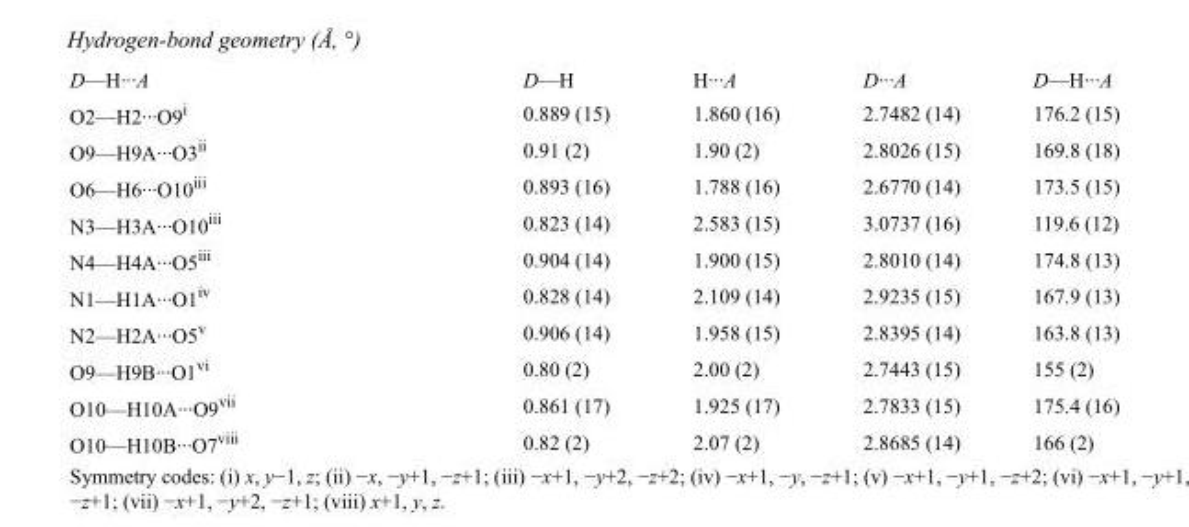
<table><tbody><tr><td>D—H···A</td><td>D—H</td><td>H···A</td><td>D···A</td><td>D—H···A</td></tr><tr><td>O2—H2···O9<sup>i</sup></td><td>0.889 (15)</td><td>1.860 (16)</td><td>2.7482 (14)</td><td>176.2 (15)</td></tr><tr><td>O9—H9A···O3<sup>ii</sup></td><td>0.91 (2)</td><td>1.90 (2)</td><td>2.8026 (15)</td><td>169.8 (18)</td></tr><tr><td>O6—H6···O10<sup>iii</sup></td><td>0.893 (16)</td><td>1.788 (16)</td><td>2.6770 (14)</td><td>173.5 (15)</td></tr><tr><td>N3—H3A···O10<sup>iii</sup></td><td>0.823 (14)</td><td>2.583 (15)</td><td>3.0737 (16)</td><td>119.6 (12)</td></tr><tr><td>N4—H4A···O5<sup>iii</sup></td><td>0.904 (14)</td><td>1.900 (15)</td><td>2.8010 (14)</td><td>174.8 (13)</td></tr><tr><td>N1—H1A···O1<sup>iv</sup></td><td>0.828 (14)</td><td>2.109 (14)</td><td>2.9235 (15)</td><td>167.9 (13)</td></tr><tr><td>N2—H2A···O5<sup>v</sup></td><td>0.906 (14)</td><td>1.958 (15)</td><td>2.8395 (14)</td><td>163.8 (13)</td></tr><tr><td>O9—H9B···O1<sup>vi</sup></td><td>0.80 (2)</td><td>2.00 (2)</td><td>2.7443 (15)</td><td>155 (2)</td></tr><tr><td>O10—H10A···O9<sup>vii</sup></td><td>0.861 (17)</td><td>1.925 (17)</td><td>2.7833 (15)</td><td>175.4 (16)</td></tr><tr><td>O10—H10B···O7<sup>viii</sup></td><td>0.82 (2)</td><td>2.07 (2)</td><td>2.8685 (14)</td><td>166 (2)</td></tr></tbody></table>